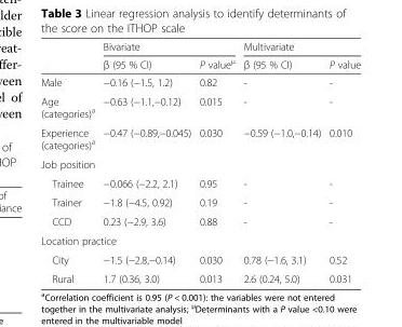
<table><thead><tr><td rowspan="2"></td><td colspan="2">Bivariate</td><td colspan="2">Multivariate</td></tr><tr><td>β (95 % CI)</td><td>P value<sup>μ</sup></td><td>β (95 % CI)</td><td>P value</td></tr></thead><tbody><tr><td>Male</td><td>−0.16 (−1.5, 1.2)</td><td>0.82</td><td>-</td><td>-</td></tr><tr><td>Age (categories)<sup>a</sup></td><td>−0.63 (−1.1,−0.12)</td><td>0.015</td><td>-</td><td>-</td></tr><tr><td>Experience (categories)<sup>a</sup></td><td>−0.47 (−0.89,−0.045)</td><td>0.030</td><td>−0.59 (−1.0,−0.14)</td><td>0.010</td></tr><tr><td colspan="5">Job position</td></tr><tr><td>Trainee</td><td>−0.066 (−2.2, 2.1)</td><td>0.95</td><td>-</td><td>-</td></tr><tr><td>Trainer</td><td>−1.8 (−4.5, 0.92)</td><td>0.19</td><td>-</td><td>-</td></tr><tr><td>CCD</td><td>0.23 (−2.9, 3.6)</td><td>0.88</td><td>-</td><td>-</td></tr><tr><td colspan="5">Location practice</td></tr><tr><td>City</td><td>−1.5 (−2.8,−0.14)</td><td>0.030</td><td>0.78 (−1.6, 3.1)</td><td>0.52</td></tr><tr><td>Rural</td><td>1.7 (0.36, 3.0)</td><td>0.013</td><td>2.6 (0.24, 5.0)</td><td>0.031</td></tr></tbody></table>